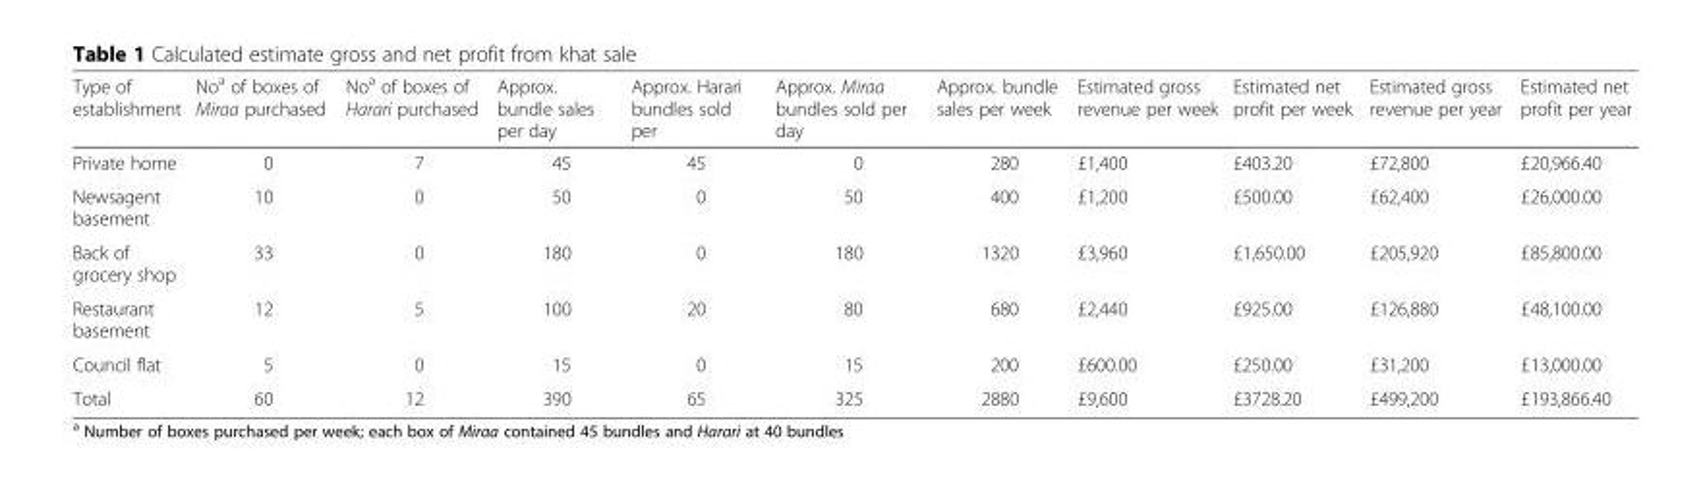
<table><thead><tr><td>Type of establishment</td><td>No<sup>a</sup> of boxes of Miraa purchased</td><td>No<sup>a</sup> of boxes of Harari purchased</td><td>Approx. bundle sales per day</td><td>Approx. Harari bundles sold per</td><td>Approx. Miraa bundles sold per day</td><td>Approx. bundle sales per week</td><td>Estimated gross revenue per week</td><td>Estimated net profit per week</td><td>Estimated gross revenue per year</td><td>Estimated net profit per year</td></tr></thead><tbody><tr><td>Private home</td><td>0</td><td>7</td><td>45</td><td>45</td><td>0</td><td>280</td><td>£1,400</td><td>£403.20</td><td>£72,800</td><td>£20,966.40</td></tr><tr><td>Newsagent basement</td><td>10</td><td>0</td><td>50</td><td>0</td><td>50</td><td>400</td><td>£1,200</td><td>£500.00</td><td>£62,400</td><td>£26,000.00</td></tr><tr><td>Back of grocery shop</td><td>33</td><td>0</td><td>180</td><td>0</td><td>180</td><td>1320</td><td>£3,960</td><td>£1,650.00</td><td>£205,920</td><td>£85,800.00</td></tr><tr><td>Restaurant basement</td><td>12</td><td>5</td><td>100</td><td>20</td><td>80</td><td>680</td><td>£2,440</td><td>£925.00</td><td>£126,880</td><td>£48,100.00</td></tr><tr><td>Council flat</td><td>5</td><td>0</td><td>15</td><td>0</td><td>15</td><td>200</td><td>£600.00</td><td>£250.00</td><td>£31,200</td><td>£13,000.00</td></tr><tr><td>Total</td><td>60</td><td>12</td><td>390</td><td>65</td><td>325</td><td>2880</td><td>£9,600</td><td>£3728.20</td><td>£499,200</td><td>£193,866.40</td></tr></tbody></table>